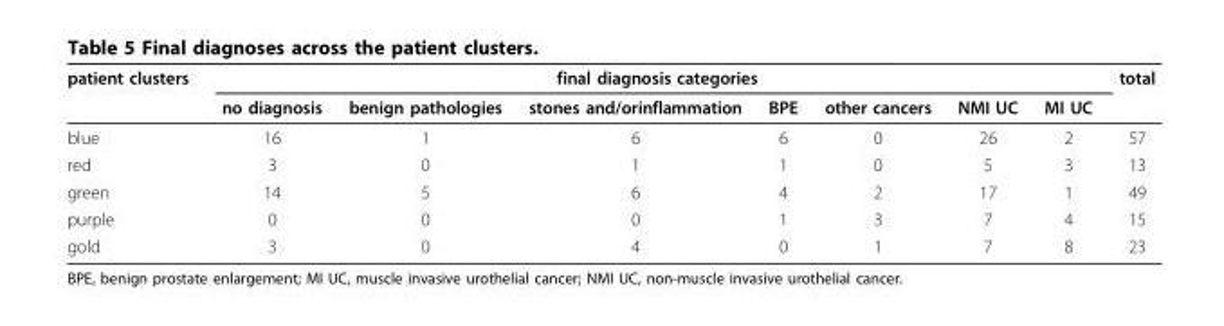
<table><thead><tr><td rowspan="2">patient clusters</td><td colspan="7">final diagnosis categories</td><td rowspan="2">total</td></tr><tr><td>no diagnosis</td><td>benign pathologies</td><td>stones and/orinflammation</td><td>BPE</td><td>other cancers</td><td>NMI UC</td><td>MI UC</td></tr></thead><tbody><tr><td>blue</td><td>16</td><td>1</td><td>6</td><td>6</td><td>0</td><td>26</td><td>2</td><td>57</td></tr><tr><td>red</td><td>3</td><td>0</td><td>1</td><td>1</td><td>0</td><td>5</td><td>3</td><td>13</td></tr><tr><td>green</td><td>14</td><td>5</td><td>6</td><td>4</td><td>2</td><td>17</td><td>1</td><td>49</td></tr><tr><td>purple</td><td>0</td><td>0</td><td>0</td><td>1</td><td>3</td><td>7</td><td>4</td><td>15</td></tr><tr><td>gold</td><td>3</td><td>0</td><td>4</td><td>0</td><td>1</td><td>7</td><td>8</td><td>23</td></tr></tbody></table>